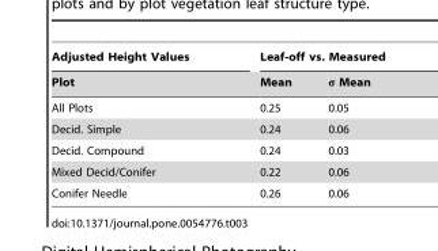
<table><thead><tr><td rowspan="2">Adjusted Height Values Plot</td><td colspan="2">Leaf-off vs. Measured</td></tr><tr><td>Mean</td><td>σ Mean</td></tr></thead><tbody><tr><td>All Plots</td><td>0.25</td><td>0.05</td></tr><tr><td>Decid. Simple</td><td>0.24</td><td>0.06</td></tr><tr><td>Decid. Compound</td><td>0.24</td><td>0.03</td></tr><tr><td>Mixed Decid/Conifer</td><td>0.22</td><td>0.06</td></tr><tr><td>Conifer Needle</td><td>0.26</td><td>0.06</td></tr></tbody></table>